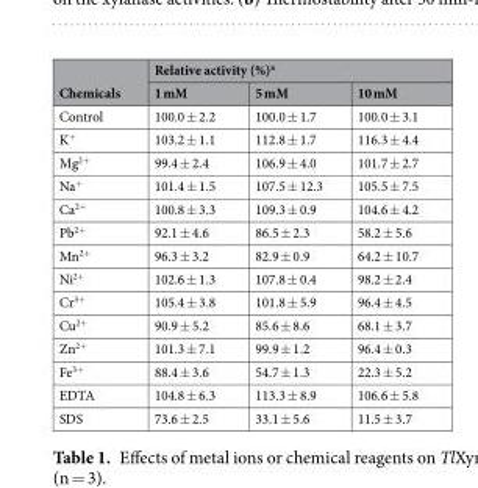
<table><thead><tr><td rowspan="2">Chemicals</td><td colspan="3">Relative activity (%)<sup>a</sup></td></tr><tr><td>1 mM</td><td>5 mM</td><td>10 mM</td></tr></thead><tbody><tr><td>Control</td><td>100.0 ± 2.2</td><td>100.0 ± 1.7</td><td>100.0 ± 3.1</td></tr><tr><td>K<sup>+</sup></td><td>103.2 ± 1.1</td><td>112.8 ± 1.7</td><td>116.3 ± 4.4</td></tr><tr><td>Mg<sup>2+</sup></td><td>99.4 ± 2.4</td><td>106.9 ± 4.0</td><td>101.7 ± 2.7</td></tr><tr><td>Na<sup>+</sup></td><td>101.4 ± 1.5</td><td>107.5 ± 12.3</td><td>105.5 ± 7.5</td></tr><tr><td>Ca<sup>2+</sup></td><td>100.8 ± 3.3</td><td>109.3 ± 0.9</td><td>104.6 ± 4.2</td></tr><tr><td>Pb<sup>2+</sup></td><td>92.1 ± 4.6</td><td>86.5 ± 2.3</td><td>58.2 ± 5.6</td></tr><tr><td>Mn<sup>2+</sup></td><td>96.3 ± 3.2</td><td>82.9 ± 0.9</td><td>64.2 ± 10.7</td></tr><tr><td>Ni<sup>2+</sup></td><td>102.6 ± 1.3</td><td>107.8 ± 0.4</td><td>98.2 ± 2.4</td></tr><tr><td>Cr<sup>3+</sup></td><td>105.4 ± 3.8</td><td>101.8 ± 5.9</td><td>96.4 ± 4.5</td></tr><tr><td>Cu<sup>2+</sup></td><td>90.9 ± 5.2</td><td>85.6 ± 8.6</td><td>68.1 ± 3.7</td></tr><tr><td>Zn<sup>2+</sup></td><td>101.3 ± 7.1</td><td>99.9 ± 1.2</td><td>96.4 ± 0.3</td></tr><tr><td>Fe<sup>3+</sup></td><td>88.4 ± 3.6</td><td>54.7 ± 1.3</td><td>22.3 ± 5.2</td></tr><tr><td>EDTA</td><td>104.8 ± 6.3</td><td>113.3 ± 8.9</td><td>106.6 ± 5.8</td></tr><tr><td>SDS</td><td>73.6 ± 2.5</td><td>33.1 ± 5.6</td><td>11.5 ± 3.7</td></tr></tbody></table>